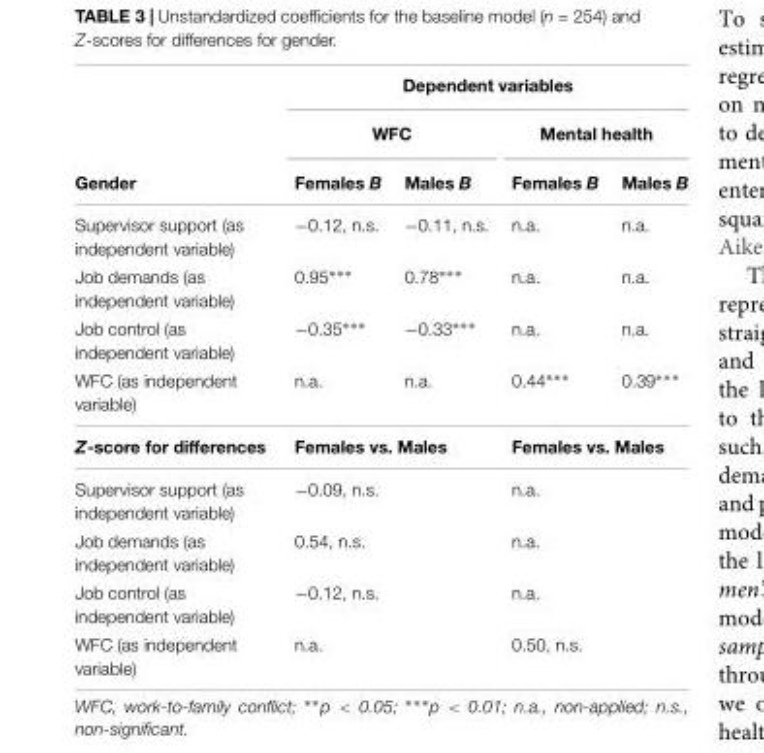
<table><thead><tr><td rowspan="3">Gender</td><td colspan="4">Dependent variables</td></tr><tr><td colspan="2">WFC</td><td colspan="2">Mental health</td></tr><tr><td>Females B</td><td>Males B</td><td>Females B</td><td>Males B</td></tr></thead><tbody><tr><td>Supervisor support (as independent variable)</td><td>−0.12, n.s.</td><td>−0.11, n.s.</td><td>n.a.</td><td>n.a.</td></tr><tr><td>Job demands (as independent variable)</td><td>0.95∗∗∗</td><td>0.78∗∗∗</td><td>n.a.</td><td>n.a.</td></tr><tr><td>Job control (as independent variable)</td><td>−0.35∗∗∗</td><td>−0.33∗∗∗</td><td>n.a.</td><td>n.a.</td></tr><tr><td>WFC (as independent variable)</td><td>n.a.</td><td>n.a.</td><td>0.44∗∗∗</td><td>0.39∗∗∗</td></tr><tr><td>Z-score for differences</td><td colspan="2">Females vs. Males</td><td colspan="2">Females vs. Males</td></tr><tr><td>Supervisor support (as independent variable)</td><td colspan="2">−0.09, n.s.</td><td colspan="2">n.a.</td></tr><tr><td>Job demands (as independent variable)</td><td colspan="2">0.54, n.s.</td><td colspan="2">n.a.</td></tr><tr><td>Job control (as independent variable)</td><td colspan="2">−0.12, n.s.</td><td colspan="2">n.a.</td></tr><tr><td>WFC (as independent variable)</td><td colspan="2">n.a.</td><td colspan="2">0.50, n.s.</td></tr></tbody></table>